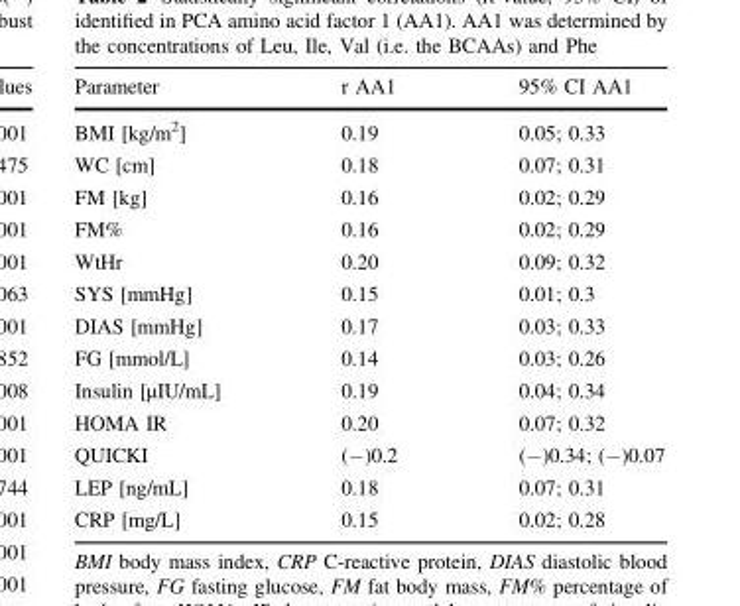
<table><thead><tr><td>Parameter</td><td>r AA1</td><td>95% CI AA1</td></tr></thead><tbody><tr><td>BMI [kg/m<sup>2</sup>]</td><td>0.19</td><td>0.05; 0.33</td></tr><tr><td>WC [cm]</td><td>0.18</td><td>0.07; 0.31</td></tr><tr><td>FM [kg]</td><td>0.16</td><td>0.02; 0.29</td></tr><tr><td>FM%</td><td>0.16</td><td>0.02; 0.29</td></tr><tr><td>WtHr</td><td>0.20</td><td>0.09; 0.32</td></tr><tr><td>SYS [mmHg]</td><td>0.15</td><td>0.01; 0.3</td></tr><tr><td>DIAS [mmHg]</td><td>0.17</td><td>0.03; 0.33</td></tr><tr><td>FG [mmol/L]</td><td>0.14</td><td>0.03; 0.26</td></tr><tr><td>Insulin [µIU/mL]</td><td>0.19</td><td>0.04; 0.34</td></tr><tr><td>HOMA IR</td><td>0.20</td><td>0.07; 0.32</td></tr><tr><td>QUICKI</td><td>(−)0.2</td><td>(−)0.34; (−)0.07</td></tr><tr><td>LEP [ng/mL]</td><td>0.18</td><td>0.07; 0.31</td></tr><tr><td>CRP [mg/L]</td><td>0.15</td><td>0.02; 0.28</td></tr></tbody></table>